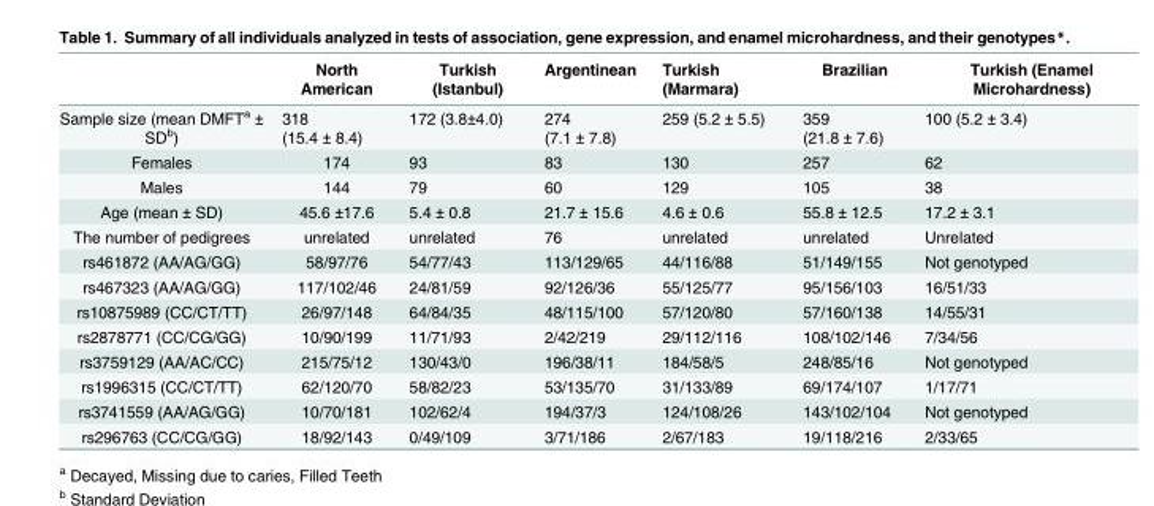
<table><thead><tr><td></td><td>North American</td><td>Turkish (Istanbul)</td><td>Argentinean</td><td>Turkish (Marmara)</td><td>Brazilian</td><td>Turkish (Enamel Microhardness)</td></tr></thead><tbody><tr><td>Sample size (mean DMFT<sup>a</sup> ± SD<sup>b</sup>)</td><td>318 (15.4 ± 8.4)</td><td>172 (3.8±4.0)</td><td>274 (7.1 ± 7.8)</td><td>259 (5.2 ± 5.5)</td><td>359 (21.8 ± 7.6)</td><td>100 (5.2 ± 3.4)</td></tr><tr><td>Females</td><td>174</td><td>93</td><td>83</td><td>130</td><td>257</td><td>62</td></tr><tr><td>Males</td><td>144</td><td>79</td><td>60</td><td>129</td><td>105</td><td>38</td></tr><tr><td>Age (mean ± SD)</td><td>45.6 ±17.6</td><td>5.4 ± 0.8</td><td>21.7 ± 15.6</td><td>4.6 ± 0.6</td><td>55.8 ± 12.5</td><td>17.2 ± 3.1</td></tr><tr><td>The number of pedigrees</td><td>unrelated</td><td>unrelated</td><td>76</td><td>unrelated</td><td>unrelated</td><td>Unrelated</td></tr><tr><td>rs461872 (AA/AG/GG)</td><td>58/97/76</td><td>54/77/43</td><td>113/129/65</td><td>44/116/88</td><td>51/149/155</td><td>Not genotyped</td></tr><tr><td>rs467323 (AA/AG/GG)</td><td>117/102/46</td><td>24/81/59</td><td>92/126/36</td><td>55/125/77</td><td>95/156/103</td><td>16/51/33</td></tr><tr><td>rs10875989 (CC/CT/TT)</td><td>26/97/148</td><td>64/84/35</td><td>48/115/100</td><td>57/120/80</td><td>57/160/138</td><td>14/55/31</td></tr><tr><td>rs2878771 (CC/CG/GG)</td><td>10/90/199</td><td>11/71/93</td><td>2/42/219</td><td>29/112/116</td><td>108/102/146</td><td>7/34/56</td></tr><tr><td>rs3759129 (AA/AC/CC)</td><td>215/75/12</td><td>130/43/0</td><td>196/38/11</td><td>184/58/5</td><td>248/85/16</td><td>Not genotyped</td></tr><tr><td>rs1996315 (CC/CT/TT)</td><td>62/120/70</td><td>58/82/23</td><td>53/135/70</td><td>31/133/89</td><td>69/174/107</td><td>1/17/71</td></tr><tr><td>rs3741559 (AA/AG/GG)</td><td>10/70/181</td><td>102/62/4</td><td>194/37/3</td><td>124/108/26</td><td>143/102/104</td><td>Not genotyped</td></tr><tr><td>rs296763 (CC/CG/GG)</td><td>18/92/143</td><td>0/49/109</td><td>3/71/186</td><td>2/67/183</td><td>19/118/216</td><td>2/33/65</td></tr></tbody></table>